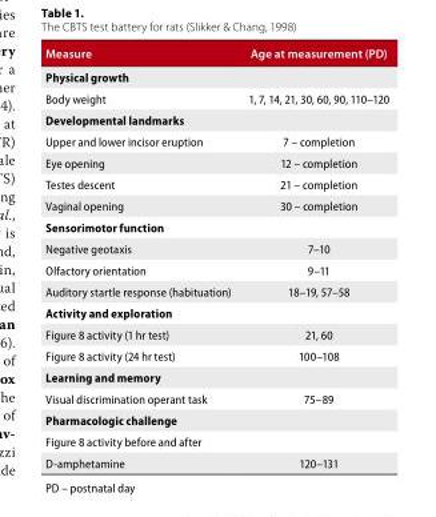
<table><thead><tr><td>Measure</td><td>age at measurement (PD)</td></tr></thead><tbody><tr><td colspan="2">Physical growth</td></tr><tr><td>Body weight</td><td>1, 7, 14, 21, 30, 60, 90, 110–120</td></tr><tr><td colspan="2">Developmental landmarks</td></tr><tr><td>Upper and lower incisor eruption</td><td>7 – completion</td></tr><tr><td>Eye opening</td><td>12 – completion</td></tr><tr><td>Testes descent</td><td>21 – completion</td></tr><tr><td>Vaginal opening</td><td>30 – completion</td></tr><tr><td colspan="2">Sensorimotor function</td></tr><tr><td>Negative geotaxis</td><td>7–10</td></tr><tr><td>Olfactory orientation</td><td>9–11</td></tr><tr><td>Auditory startle response (habituation)</td><td>18–19, 57–58</td></tr><tr><td colspan="2">Activity and exploration</td></tr><tr><td>Figure 8 activity (1 hr test)</td><td>21, 60</td></tr><tr><td>Figure 8 activity (24 hr test)</td><td>100–108</td></tr><tr><td colspan="2">Learning and memory</td></tr><tr><td>Visual discrimination operant task</td><td>75–89</td></tr><tr><td colspan="2">Pharmacologic challenge</td></tr><tr><td>Figure 8 activity before and after D-amphetamine</td><td>120–131</td></tr></tbody></table>